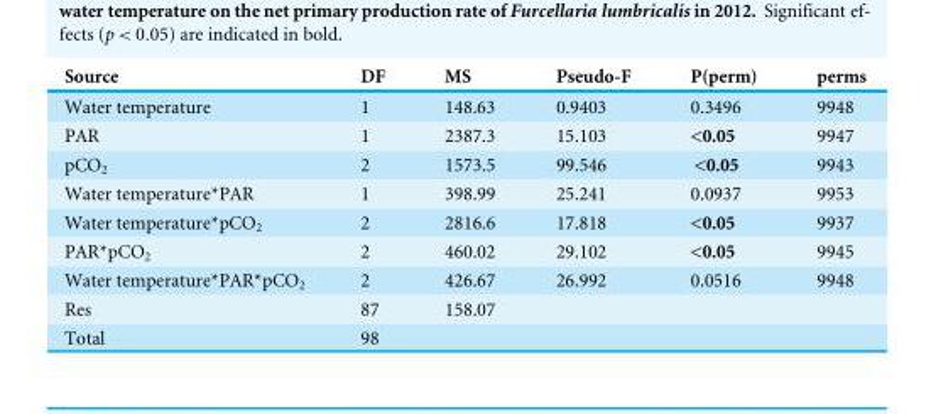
<table><thead><tr><td>Source</td><td>DF</td><td>MS</td><td>Pseudo-F</td><td>P(perm)</td><td>perms</td></tr></thead><tbody><tr><td>Water temperature</td><td>1</td><td>148.63</td><td>0.9403</td><td>0.3496</td><td>9948</td></tr><tr><td>PAR</td><td>1</td><td>2387.3</td><td>15.103</td><td>&lt;0.05</td><td>9947</td></tr><tr><td>pCO<sub>2</sub></td><td>2</td><td>1573.5</td><td>99.546</td><td>&lt;0.05</td><td>9943</td></tr><tr><td>Water temperature*PAR</td><td>1</td><td>398.99</td><td>25.241</td><td>0.0937</td><td>9953</td></tr><tr><td>Water temperature*pCO<sub>2</sub></td><td>2</td><td>2816.6</td><td>17.818</td><td>&lt;0.05</td><td>9937</td></tr><tr><td>PAR*pCO<sub>2</sub></td><td>2</td><td>460.02</td><td>29.102</td><td>&lt;0.05</td><td>9945</td></tr><tr><td>Water temperature*PAR*pCO<sub>2</sub></td><td>2</td><td>426.67</td><td>26.992</td><td>0.0516</td><td>9948</td></tr><tr><td>Res</td><td>87</td><td>158.07</td><td></td><td></td><td></td></tr><tr><td>Total</td><td>98</td><td></td><td></td><td></td><td></td></tr></tbody></table>